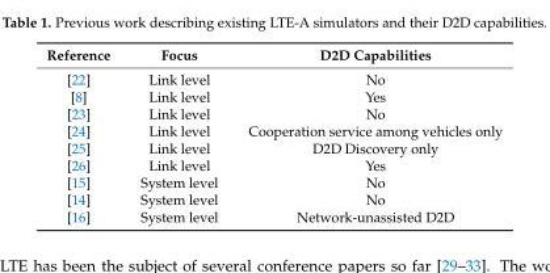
<table><thead><tr><td>Reference</td><td>Focus</td><td>D2D Capabilities</td></tr></thead><tbody><tr><td>[22]</td><td>Link level</td><td>No</td></tr><tr><td>[8]</td><td>Link level</td><td>Yes</td></tr><tr><td>[23]</td><td>Link level</td><td>No</td></tr><tr><td>[24]</td><td>Link level</td><td>Cooperation service among vehicles only</td></tr><tr><td>[25]</td><td>Link level</td><td>D2D Discovery only</td></tr><tr><td>[26]</td><td>Link level</td><td>Yes</td></tr><tr><td>[15]</td><td>System level</td><td>No</td></tr><tr><td>[14]</td><td>System level</td><td>No</td></tr><tr><td>[16]</td><td>System level</td><td>Network-unassisted D2D</td></tr></tbody></table>